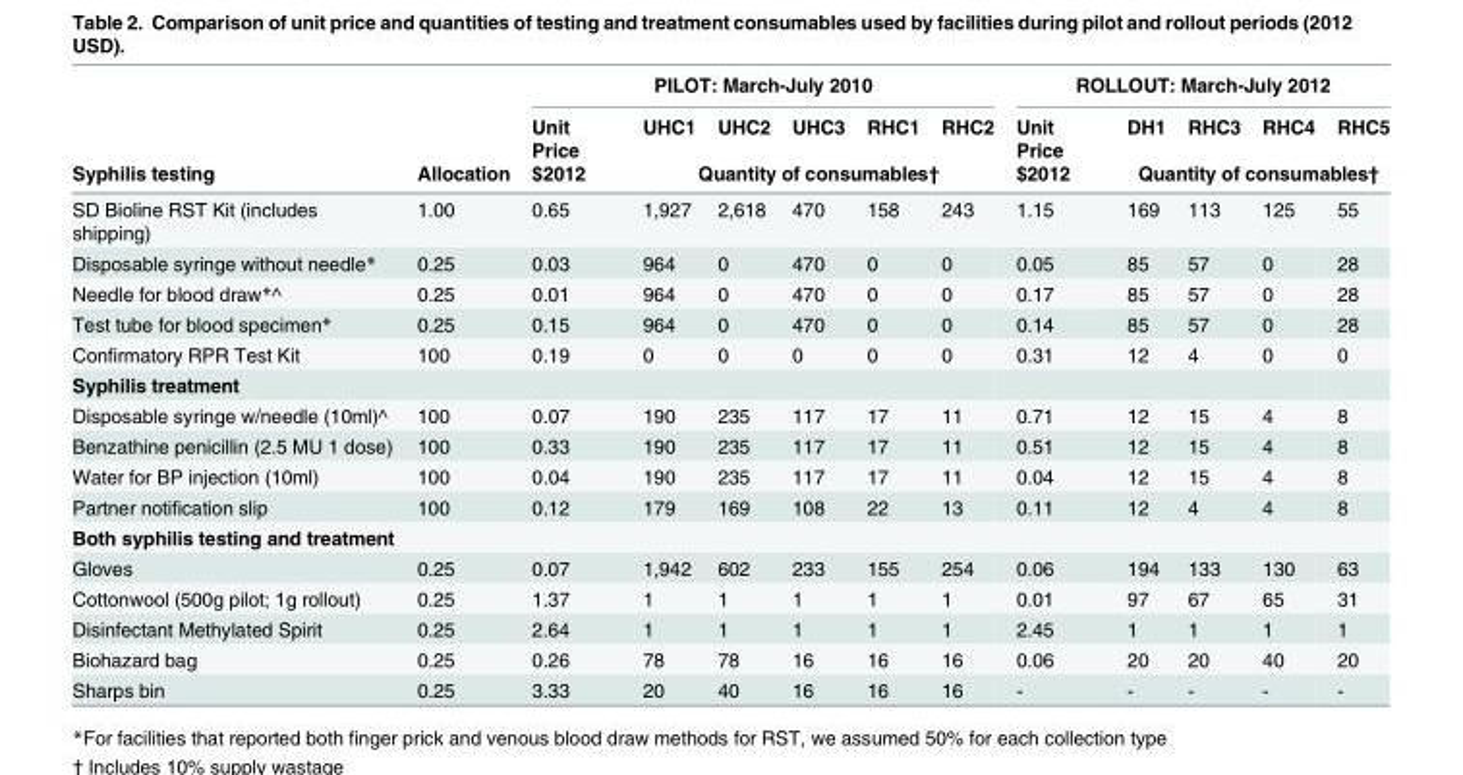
<table><thead><tr><td rowspan="3">Syphilis testing</td><td rowspan="3">Allocation</td><td colspan="6">PILOT: March-July 2010</td><td colspan="5">ROLLOUT: March-July 2012</td></tr><tr><td rowspan="2">Unit Price $2012</td><td>UHC1</td><td>UHC2</td><td>UHC3</td><td>RHC1</td><td>RHC2</td><td rowspan="2">Unit Price $2012</td><td>DH1</td><td>RHC3</td><td>RHC4</td><td>RHC5</td></tr><tr><td colspan="5">Quantity of consumables†</td><td colspan="4">Quantity of consumables†</td></tr></thead><tbody><tr><td>SD Bioline RST Kit (includes shipping)</td><td>1.00</td><td>0.65</td><td>1,927</td><td>2,618</td><td>470</td><td>158</td><td>243</td><td>1.15</td><td>169</td><td>113</td><td>125</td><td>55</td></tr><tr><td>Disposable syringe without needle*</td><td>0.25</td><td>0.03</td><td>964</td><td>0</td><td>470</td><td>0</td><td>0</td><td>0.05</td><td>85</td><td>57</td><td>0</td><td>28</td></tr><tr><td>Needle for blood draw*^</td><td>0.25</td><td>0.01</td><td>964</td><td>0</td><td>470</td><td>0</td><td>0</td><td>0.17</td><td>85</td><td>57</td><td>0</td><td>28</td></tr><tr><td>Test tube for blood specimen*</td><td>0.25</td><td>0.15</td><td>964</td><td>0</td><td>470</td><td>0</td><td>0</td><td>0.14</td><td>85</td><td>57</td><td>0</td><td>28</td></tr><tr><td>Confirmatory RPR Test Kit</td><td>100</td><td>0.19</td><td>0</td><td>0</td><td>0</td><td>0</td><td>0</td><td>0.31</td><td>12</td><td>4</td><td>0</td><td>0</td></tr><tr><td colspan="13">Syphilis treatment</td></tr><tr><td>Disposable syringe w/needle (10ml)^</td><td>100</td><td>0.07</td><td>190</td><td>235</td><td>117</td><td>17</td><td>11</td><td>0.71</td><td>12</td><td>15</td><td>4</td><td>8</td></tr><tr><td>Benzathine penicillin (2.5 MU 1 dose)</td><td>100</td><td>0.33</td><td>190</td><td>235</td><td>117</td><td>17</td><td>11</td><td>0.51</td><td>12</td><td>15</td><td>4</td><td>8</td></tr><tr><td>Water for BP injection (10ml)</td><td>100</td><td>0.04</td><td>190</td><td>235</td><td>117</td><td>17</td><td>11</td><td>0.04</td><td>12</td><td>15</td><td>4</td><td>8</td></tr><tr><td>Partner notification slip</td><td>100</td><td>0.12</td><td>179</td><td>169</td><td>108</td><td>22</td><td>13</td><td>0.11</td><td>12</td><td>4</td><td>4</td><td>8</td></tr><tr><td colspan="13">Both syphilis testing and treatment</td></tr><tr><td>Gloves</td><td>0.25</td><td>0.07</td><td>1,942</td><td>602</td><td>233</td><td>155</td><td>254</td><td>0.06</td><td>194</td><td>133</td><td>130</td><td>63</td></tr><tr><td>Cottonwool (500g pilot; 1g rollout)</td><td>0.25</td><td>1.37</td><td>1</td><td>1</td><td>1</td><td>1</td><td>1</td><td>0.01</td><td>97</td><td>67</td><td>65</td><td>31</td></tr><tr><td>Disinfectant Methylated Spirit</td><td>0.25</td><td>2.64</td><td>1</td><td>1</td><td>1</td><td>1</td><td>1</td><td>2.45</td><td>1</td><td>1</td><td>1</td><td>1</td></tr><tr><td>Biohazard bag</td><td>0.25</td><td>0.26</td><td>78</td><td>78</td><td>16</td><td>16</td><td>16</td><td>0.06</td><td>20</td><td>20</td><td>40</td><td>20</td></tr><tr><td>Sharps bin</td><td>0.25</td><td>3.33</td><td>20</td><td>40</td><td>16</td><td>16</td><td>16</td><td>-</td><td>-</td><td>-</td><td>-</td><td>-</td></tr></tbody></table>